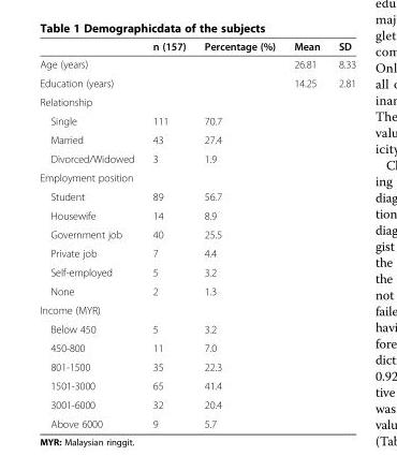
<table><thead><tr><td></td><td>n (157)</td><td>Percentage (%)</td><td>Mean</td><td>SD</td></tr></thead><tbody><tr><td>Age (years)</td><td></td><td></td><td>26.81</td><td>8.33</td></tr><tr><td>Education (years)</td><td></td><td></td><td>14.25</td><td>2.81</td></tr><tr><td colspan="5">Relationship</td></tr><tr><td>Single</td><td>111</td><td>70.7</td><td></td><td></td></tr><tr><td>Married</td><td>43</td><td>27.4</td><td></td><td></td></tr><tr><td>Divorced/Widowed</td><td>3</td><td>1.9</td><td></td><td></td></tr><tr><td colspan="5">Employment position</td></tr><tr><td>Student</td><td>89</td><td>56.7</td><td></td><td></td></tr><tr><td>Housewife</td><td>14</td><td>8.9</td><td></td><td></td></tr><tr><td>Government job</td><td>40</td><td>25.5</td><td></td><td></td></tr><tr><td>Private job</td><td>7</td><td>4.4</td><td></td><td></td></tr><tr><td>Self-employed</td><td>5</td><td>3.2</td><td></td><td></td></tr><tr><td>None</td><td>2</td><td>1.3</td><td></td><td></td></tr><tr><td colspan="5">Income (MYR)</td></tr><tr><td>Below 450</td><td>5</td><td>3.2</td><td></td><td></td></tr><tr><td>450-800</td><td>11</td><td>7.0</td><td></td><td></td></tr><tr><td>801-1500</td><td>35</td><td>22.3</td><td></td><td></td></tr><tr><td>1501-3000</td><td>65</td><td>41.4</td><td></td><td></td></tr><tr><td>3001-6000</td><td>32</td><td>20.4</td><td></td><td></td></tr><tr><td>Above 6000</td><td>9</td><td>5.7</td><td></td><td></td></tr></tbody></table>